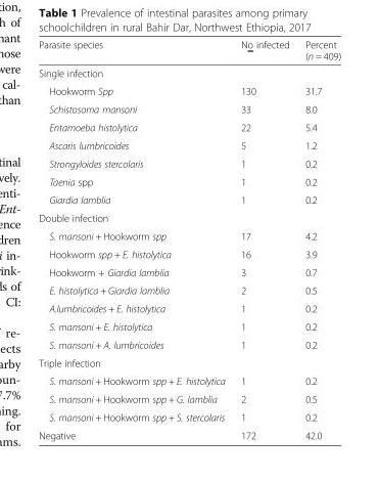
<table><thead><tr><td>Parasite species</td><td>No infected</td><td>Percent (n = 409)</td></tr></thead><tbody><tr><td colspan="3">Single infection</td></tr><tr><td>Hookworm Spp</td><td>130</td><td>31.7</td></tr><tr><td>Schistosoma mansoni</td><td>33</td><td>8.0</td></tr><tr><td>Entamoeba histolytica</td><td>22</td><td>5.4</td></tr><tr><td>Ascaris lumbricoides</td><td>5</td><td>1.2</td></tr><tr><td>Strongyloides stercolaris</td><td>1</td><td>0.2</td></tr><tr><td>Taenia spp</td><td>1</td><td>0.2</td></tr><tr><td>Giardia lamblia</td><td>1</td><td>0.2</td></tr><tr><td colspan="3">Double infection</td></tr><tr><td>S. mansoni + Hookworm spp</td><td>17</td><td>4.2</td></tr><tr><td>Hookworm spp + E. histolytica</td><td>16</td><td>3.9</td></tr><tr><td>Hookworm + Giardia lamblia</td><td>3</td><td>0.7</td></tr><tr><td>E. histolytica + Giardia lamblia</td><td>2</td><td>0.5</td></tr><tr><td>A.lumbricoides + E. histolytica</td><td>1</td><td>0.2</td></tr><tr><td>S. mansoni + E. histolytica</td><td>1</td><td>0.2</td></tr><tr><td>S. mansoni + A. lumbricoides</td><td>1</td><td>0.2</td></tr><tr><td colspan="3">Triple infection</td></tr><tr><td>S. mansoni + Hookworm spp + E. histolytica</td><td>1</td><td>0.2</td></tr><tr><td>S. mansoni + Hookworm spp + G. lamblia</td><td>2</td><td>0.5</td></tr><tr><td>S. mansoni + Hookworm spp + S. stercolaris</td><td>1</td><td>0.2</td></tr><tr><td>Negative</td><td>172</td><td>42.0</td></tr></tbody></table>